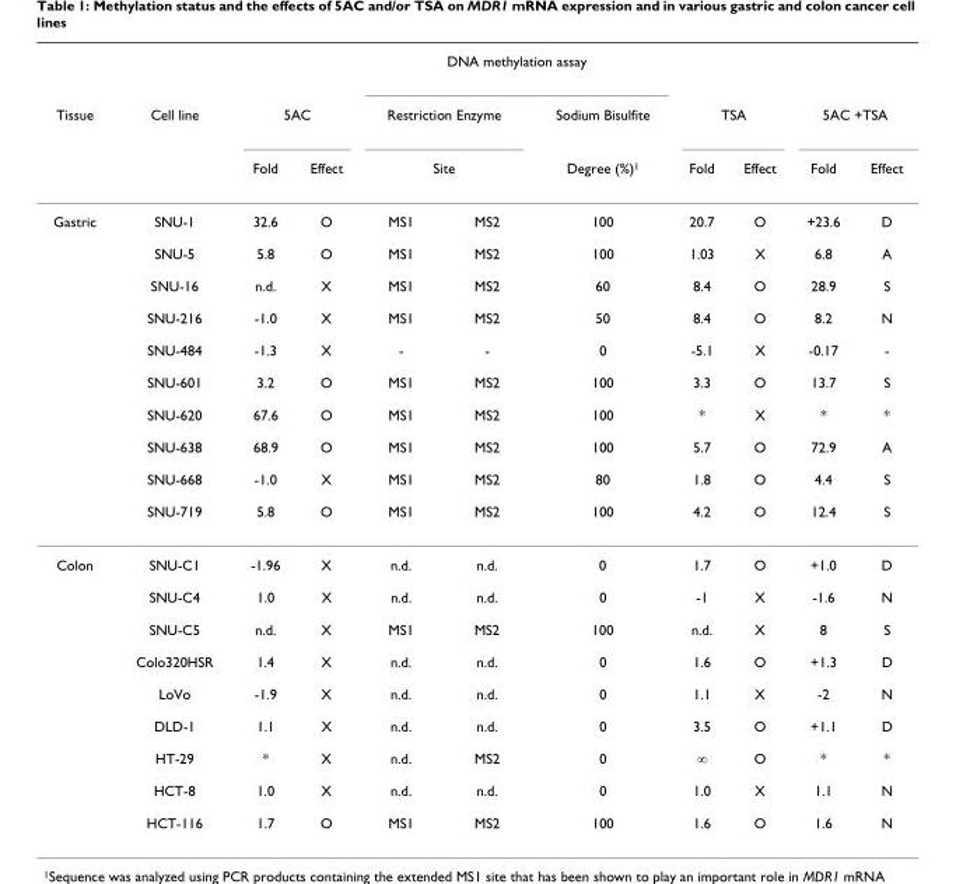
<table><thead><tr><td rowspan="4">Tissue Gastric</td><td rowspan="4">Cell line SNU-1</td><td></td><td></td><td colspan="3">DNA methylation assay</td><td></td><td></td><td></td><td></td></tr><tr><td colspan="2">5AC</td><td rowspan="2" colspan="2">Restriction Enzyme Site</td><td rowspan="3">Sodium Bisulfite Degree (%)<sup>1</sup> 100</td><td colspan="2">TSA</td><td colspan="2">5AC +TSA</td></tr><tr><td rowspan="2">Fold 32.6</td><td rowspan="2">Effect O</td><td rowspan="2">Fold 20.7</td><td rowspan="2">Effect O</td><td rowspan="2">Fold +23.6</td><td rowspan="2">Effect D</td></tr><tr><td>MS1</td><td>MS2</td></tr></thead><tbody><tr><td></td><td>SNU-5</td><td>5.8</td><td>O</td><td>MS1</td><td>MS2</td><td>100</td><td>1.03</td><td>X</td><td>6.8</td><td>A</td></tr><tr><td></td><td>SNU-16</td><td>n.d.</td><td>X</td><td>MS1</td><td>MS2</td><td>60</td><td>8.4</td><td>O</td><td>28.9</td><td>S</td></tr><tr><td></td><td>SNU-216</td><td>-1.0</td><td>X</td><td>MS1</td><td>MS2</td><td>50</td><td>8.4</td><td>O</td><td>8.2</td><td>N</td></tr><tr><td></td><td>SNU-484</td><td>-1.3</td><td>X</td><td>-</td><td>-</td><td>0</td><td>-5.1</td><td>X</td><td>-0.17</td><td>-</td></tr><tr><td></td><td>SNU-601</td><td>3.2</td><td>O</td><td>MS1</td><td>MS2</td><td>100</td><td>3.3</td><td>O</td><td>13.7</td><td>S</td></tr><tr><td></td><td>SNU-620</td><td>67.6</td><td>O</td><td>MS1</td><td>MS2</td><td>100</td><td>*</td><td>X</td><td>*</td><td>*</td></tr><tr><td></td><td>SNU-638</td><td>68.9</td><td>O</td><td>MS1</td><td>MS2</td><td>100</td><td>5.7</td><td>O</td><td>72.9</td><td>A</td></tr><tr><td></td><td>SNU-668</td><td>-1.0</td><td>X</td><td>MS1</td><td>MS2</td><td>80</td><td>1.8</td><td>O</td><td>4.4</td><td>S</td></tr><tr><td></td><td>SNU-719</td><td>5.8</td><td>O</td><td>MS1</td><td>MS2</td><td>100</td><td>4.2</td><td>O</td><td>12.4</td><td>S</td></tr><tr><td rowspan="9">Colon</td><td>SNU-C1</td><td>-1.96</td><td>X</td><td>n.d.</td><td>n.d.</td><td>0</td><td>1.7</td><td>O</td><td>+1.0</td><td>D</td></tr><tr><td>SNU-C4</td><td>1.0</td><td>X</td><td>n.d.</td><td>n.d.</td><td>0</td><td>-1</td><td>X</td><td>-1.6</td><td>N</td></tr><tr><td>SNU-C5</td><td>n.d.</td><td>X</td><td>MS1</td><td>MS2</td><td>100</td><td>n.d.</td><td>X</td><td>8</td><td>S</td></tr><tr><td>Colo320HSR</td><td>1.4</td><td>X</td><td>n.d.</td><td>n.d.</td><td>0</td><td>1.6</td><td>O</td><td>+1.3</td><td>D</td></tr><tr><td>LoVo</td><td>-1.9</td><td>X</td><td>n.d.</td><td>n.d.</td><td>0</td><td>1.1</td><td>X</td><td>-2</td><td>N</td></tr><tr><td>DLD-1</td><td>1.1</td><td>X</td><td>n.d.</td><td>n.d.</td><td>0</td><td>3.5</td><td>O</td><td>+1.1</td><td>D</td></tr><tr><td>HT-29</td><td>*</td><td>X</td><td>n.d.</td><td>MS2</td><td>0</td><td>∞</td><td>O</td><td>*</td><td>*</td></tr><tr><td>HCT-8</td><td>1.0</td><td>X</td><td>n.d.</td><td>n.d.</td><td>0</td><td>1.0</td><td>X</td><td>1.1</td><td>N</td></tr><tr><td>HCT-116</td><td>1.7</td><td>O</td><td>MS1</td><td>MS2</td><td>100</td><td>1.6</td><td>O</td><td>1.6</td><td>N</td></tr></tbody></table>